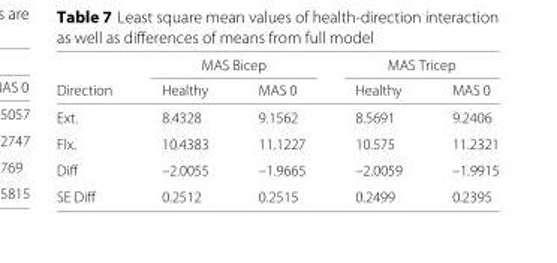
<table><thead><tr><td rowspan="2">Direction</td><td colspan="2">MAS Bicep</td><td colspan="2">MAS Tricep</td></tr><tr><td>Healthy</td><td>MAS 0</td><td>Healthy</td><td>MAS 0</td></tr></thead><tbody><tr><td>Ext.</td><td>8.4328</td><td>9.1562</td><td>8.5691</td><td>9.2406</td></tr><tr><td>Flx.</td><td>10.4383</td><td>11.1227</td><td>10.575</td><td>11.2321</td></tr><tr><td>Diff</td><td>–2.0055</td><td>–1.9665</td><td>–2.0059</td><td>–1.9915</td></tr><tr><td>SE Diff</td><td>0.2512</td><td>0.2515</td><td>0.2499</td><td>0.2395</td></tr></tbody></table>